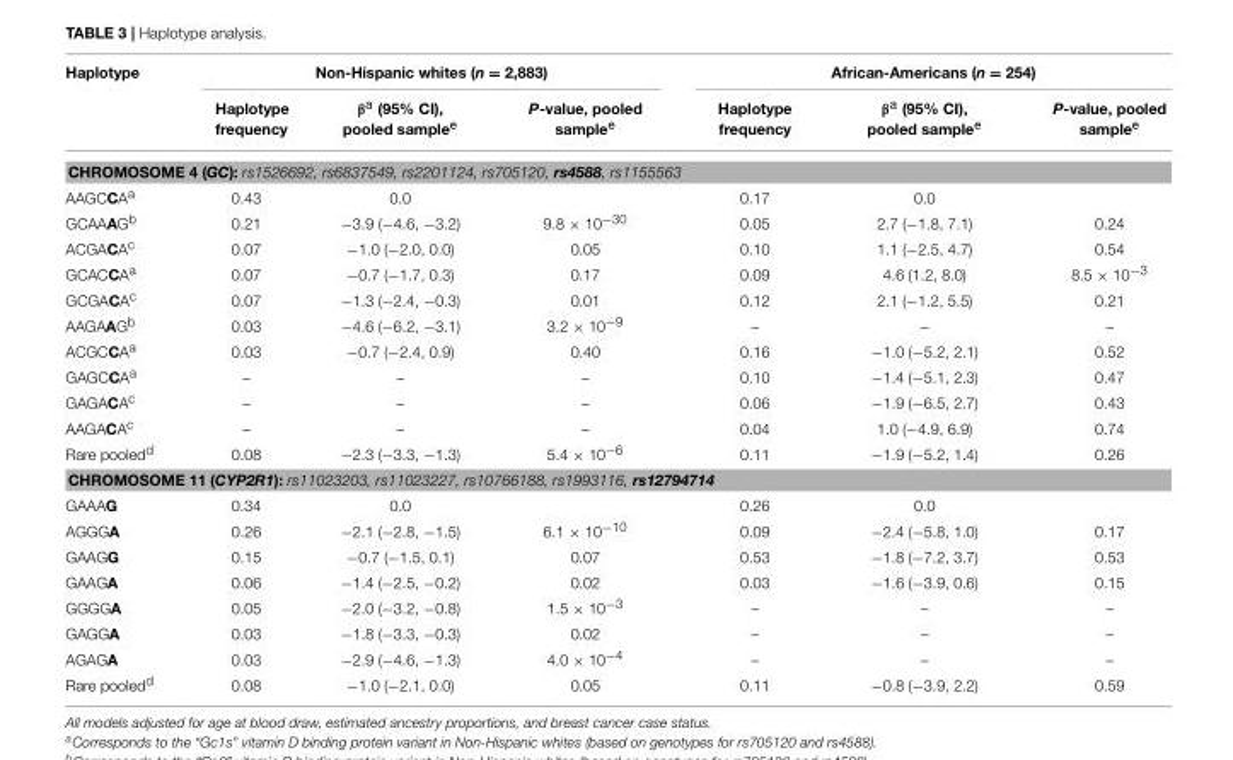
<table><thead><tr><td rowspan="2">Haplotype</td><td colspan="3">Non-Hispanic whites (n = 2,883)</td><td colspan="3">African-Americans (n = 254)</td></tr><tr><td>Haplotype frequency</td><td>β<sup>a</sup> (95% CI), pooled sample<sup>e</sup></td><td>P-value, pooled sample<sup>e</sup></td><td>Haplotype frequency</td><td>β<sup>a</sup> (95% CI), pooled sample<sup>e</sup></td><td>P-value, pooled sample<sup>e</sup></td></tr></thead><tbody><tr><td colspan="7">CHROMOSOME 4 (GC): rs1526692, rs6837549, rs2201124, rs705120, rs4588, rs1155563</td></tr><tr><td>AAGCCA<sup>a</sup></td><td>0.43</td><td>0.0</td><td></td><td>0.17</td><td>0.0</td><td></td></tr><tr><td>GCAAAG<sup>b</sup></td><td>0.21</td><td>−3.9 (−4.6, −3.2)</td><td>9.8 × 10<sup>−30</sup></td><td>0.05</td><td>2.7 (−1.8, 7.1)</td><td>0.24</td></tr><tr><td>ACGACA<sup>c</sup></td><td>0.07</td><td>−1.0 (−2.0, 0.0)</td><td>0.05</td><td>0.10</td><td>1.1 (−2.5, 4.7)</td><td>0.54</td></tr><tr><td>GCACCA<sup>a</sup></td><td>0.07</td><td>−0.7 (−1.7, 0.3)</td><td>0.17</td><td>0.09</td><td>4.6 (1.2, 8.0)</td><td>8.5 × 10<sup>−3</sup></td></tr><tr><td>GCGACA<sup>c</sup></td><td>0.07</td><td>−1.3 (−2.4, −0.3)</td><td>0.01</td><td>0.12</td><td>2.1 (−1.2, 5.5)</td><td>0.21</td></tr><tr><td>AAGAAG<sup>b</sup></td><td>0.03</td><td>−4.6 (−6.2, −3.1)</td><td>3.2 × 10<sup>−9</sup></td><td>–</td><td>–</td><td>–</td></tr><tr><td>ACGCCA<sup>a</sup></td><td>0.03</td><td>−0.7 (−2.4, 0.9)</td><td>0.40</td><td>0.16</td><td>−1.0 (−5.2, 2.1)</td><td>0.52</td></tr><tr><td>GAGCCA<sup>a</sup></td><td>–</td><td>–</td><td>–</td><td>0.10</td><td>−1.4 (−5.1, 2.3)</td><td>0.47</td></tr><tr><td>GAGACA<sup>c</sup></td><td>–</td><td>–</td><td>–</td><td>0.06</td><td>−1.9 (−6.5, 2.7)</td><td>0.43</td></tr><tr><td>AAGACA<sup>c</sup></td><td>–</td><td>–</td><td>–</td><td>0.04</td><td>1.0 (−4.9, 6.9)</td><td>0.74</td></tr><tr><td>Rare pooled<sup>d</sup></td><td>0.08</td><td>−2.3 (−3.3, −1.3)</td><td>5.4 × 10<sup>−6</sup></td><td>0.11</td><td>−1.9 (−5.2, 1.4)</td><td>0.26</td></tr><tr><td colspan="7">CHROMOSOME 11 (CYP2R1): rs11023203, rs11023227, rs10766188, rs1993116, rs12794714</td></tr><tr><td>GAAAG</td><td>0.34</td><td>0.0</td><td></td><td>0.26</td><td>0.0</td><td></td></tr><tr><td>AGGGA</td><td>0.26</td><td>−2.1 (−2.8, −1.5)</td><td>6.1 × 10<sup>−10</sup></td><td>0.09</td><td>−2.4 (−5.8, 1.0)</td><td>0.17</td></tr><tr><td>GAAGG</td><td>0.15</td><td>−0.7 (−1.5, 0.1)</td><td>0.07</td><td>0.53</td><td>−1.8 (−7.2, 3.7)</td><td>0.53</td></tr><tr><td>GAAGA</td><td>0.06</td><td>−1.4 (−2.5, −0.2)</td><td>0.02</td><td>0.03</td><td>−1.6 (−3.9, 0.6)</td><td>0.15</td></tr><tr><td>GGGGA</td><td>0.05</td><td>−2.0 (−3.2, −0.8)</td><td>1.5 × 10<sup>−3</sup></td><td>–</td><td>–</td><td>–</td></tr><tr><td>GAGGA</td><td>0.03</td><td>−1.8 (−3.3, −0.3)</td><td>0.02</td><td>–</td><td>–</td><td>–</td></tr><tr><td>AGAGA</td><td>0.03</td><td>−2.9 (−4.6, −1.3)</td><td>4.0 × 10<sup>−4</sup></td><td>–</td><td>–</td><td>–</td></tr><tr><td>Rare pooled<sup>d</sup></td><td>0.08</td><td>−1.0 (−2.1, 0.0)</td><td>0.05</td><td>0.11</td><td>−0.8 (−3.9, 2.2)</td><td>0.59</td></tr></tbody></table>